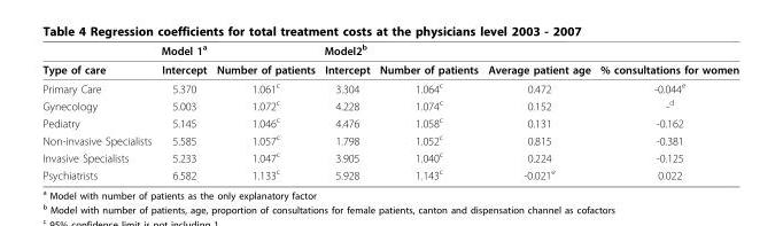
<table><thead><tr><td rowspan="2">Type of care</td><td colspan="2">Model 1<sup>a</sup></td><td colspan="4">Model2<sup>b</sup></td></tr><tr><td>Intercept</td><td>Number of patients</td><td>Intercept</td><td>Number of patients</td><td>Average patient age</td><td>% consultations for women</td></tr></thead><tbody><tr><td>Primary Care</td><td>5.370</td><td>1.061<sup>c</sup></td><td>3.304</td><td>1.064<sup>c</sup></td><td>0.472</td><td>-0.044<sup>e</sup></td></tr><tr><td>Gynecology</td><td>5.003</td><td>1.072<sup>c</sup></td><td>4.228</td><td>1.074<sup>c</sup></td><td>0.152</td><td>-<sup>d</sup></td></tr><tr><td>Pediatry</td><td>5.145</td><td>1.046<sup>c</sup></td><td>4.476</td><td>1.058<sup>c</sup></td><td>0.131</td><td>-0.162</td></tr><tr><td>Non-invasive Specialists</td><td>5.585</td><td>1.057<sup>c</sup></td><td>1.798</td><td>1.052<sup>c</sup></td><td>0.815</td><td>-0.381</td></tr><tr><td>Invasive Specialists</td><td>5.233</td><td>1.047<sup>c</sup></td><td>3.905</td><td>1.040<sup>c</sup></td><td>0.224</td><td>-0.125</td></tr><tr><td>Psychiatrists</td><td>6.582</td><td>1.133<sup>c</sup></td><td>5.928</td><td>1.143<sup>c</sup></td><td>-0.021<sup>e</sup></td><td>0.022</td></tr></tbody></table>